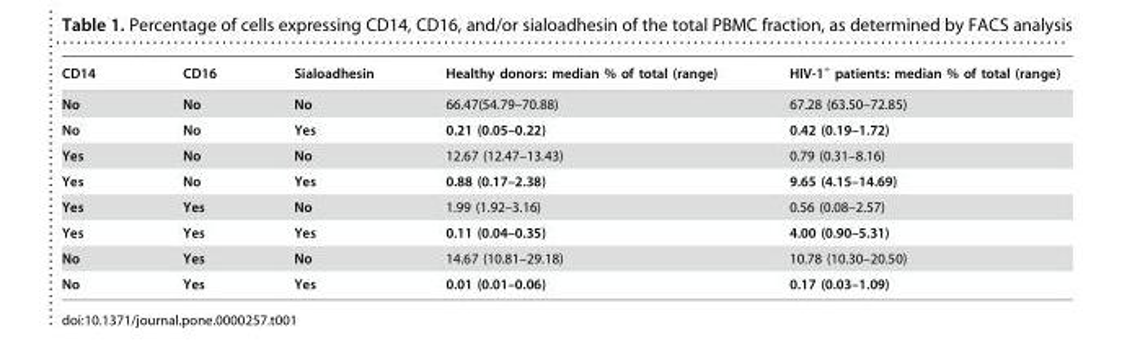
<table><thead><tr><td>CD14</td><td>CD16</td><td>Sialoadhesin</td><td>Healthy donors: median % of total (range)</td><td>HIV-1<sup>+</sup> patients: median % of total (range)</td></tr></thead><tbody><tr><td>No</td><td>No</td><td>No</td><td>66.47(54.79–70.88)</td><td>67.28 (63.50–72.85)</td></tr><tr><td>No</td><td>No</td><td>Yes</td><td>0.21 (0.05–0.22)</td><td>0.42 (0.19–1.72)</td></tr><tr><td>Yes</td><td>No</td><td>No</td><td>12.67 (12.47–13.43)</td><td>0.79 (0.31–8.16)</td></tr><tr><td>Yes</td><td>No</td><td>Yes</td><td>0.88 (0.17–2.38)</td><td>9.65 (4.15–14.69)</td></tr><tr><td>Yes</td><td>Yes</td><td>No</td><td>1.99 (1.92–3.16)</td><td>0.56 (0.08–2.57)</td></tr><tr><td>Yes</td><td>Yes</td><td>Yes</td><td>0.11 (0.04–0.35)</td><td>4.00 (0.90–5.31)</td></tr><tr><td>No</td><td>Yes</td><td>No</td><td>14.67 (10.81–29.18)</td><td>10.78 (10.30–20.50)</td></tr><tr><td>No</td><td>Yes</td><td>Yes</td><td>0.01 (0.01–0.06)</td><td>0.17 (0.03–1.09)</td></tr></tbody></table>